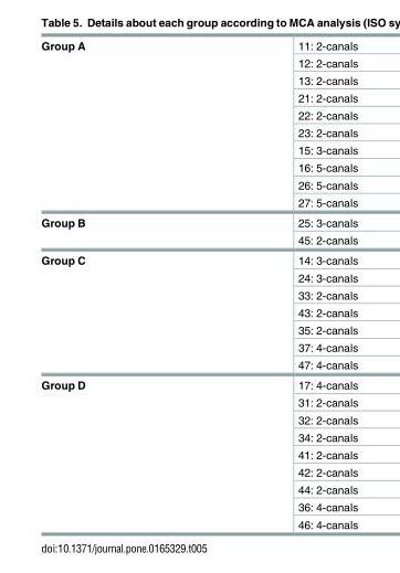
<table><tbody><tr><td rowspan="10">Group A</td><td>11: 2-canals</td></tr><tr><td>12: 2-canals</td></tr><tr><td>13: 2-canals</td></tr><tr><td>21: 2-canals</td></tr><tr><td>22: 2-canals</td></tr><tr><td>23: 2-canals</td></tr><tr><td>15: 3-canals</td></tr><tr><td>16: 5-canals</td></tr><tr><td>26: 5-canals</td></tr><tr><td>27: 5-canals</td></tr><tr><td rowspan="2">Group B</td><td>25: 3-canals</td></tr><tr><td>45: 2-canals</td></tr><tr><td rowspan="7">Group C</td><td>14: 3-canals</td></tr><tr><td>24: 3-canals</td></tr><tr><td>33: 2-canals</td></tr><tr><td>43: 2-canals</td></tr><tr><td>35: 2-canals</td></tr><tr><td>37: 4-canals</td></tr><tr><td>47: 4-canals</td></tr><tr><td rowspan="9">Group D</td><td>17: 4-canals</td></tr><tr><td>31: 2-canals</td></tr><tr><td>32: 2-canals</td></tr><tr><td>34: 2-canals</td></tr><tr><td>41: 2-canals</td></tr><tr><td>42: 2-canals</td></tr><tr><td>44: 2-canals</td></tr><tr><td>36: 4-canals</td></tr><tr><td>46: 4-canals</td></tr></tbody></table>